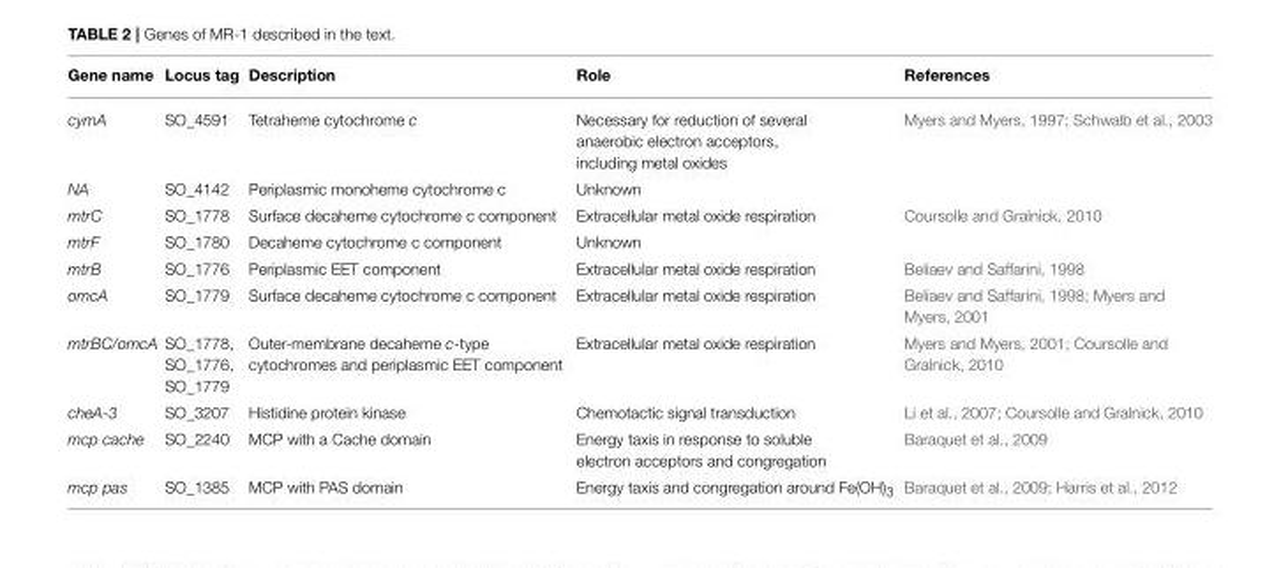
<table><thead><tr><td>Gene name</td><td>Locus tag</td><td>Description</td><td>Role</td><td>References</td></tr></thead><tbody><tr><td>cymA</td><td>SO_4591</td><td>Tetraheme cytochrome c</td><td>Necessary for reduction of several anaerobic electron acceptors, including metal oxides</td><td>Myers and Myers, 1997; Schwalb et al., 2003</td></tr><tr><td>NA</td><td>SO_4142</td><td>Periplasmic monoheme cytochrome c</td><td>Unknown</td><td></td></tr><tr><td>mtrC</td><td>SO_1778</td><td>Surface decaheme cytochrome c component</td><td>Extracellular metal oxide respiration</td><td>Coursolle and Gralnick, 2010</td></tr><tr><td>mtrF</td><td>SO_1780</td><td>Decaheme cytochrome c component</td><td>Unknown</td><td></td></tr><tr><td>mtrB</td><td>SO_1776</td><td>Periplasmic EET component</td><td>Extracellular metal oxide respiration</td><td>Beliaev and Saffarini, 1998</td></tr><tr><td>omcA</td><td>SO_1779</td><td>Surface decaheme cytochrome c component</td><td>Extracellular metal oxide respiration</td><td>Beliaev and Saffarini, 1998; Myers and Myers, 2001</td></tr><tr><td>mtrBC/omcA</td><td>SO_1778, SO_1776, SO_1779</td><td>Outer-membrane decaheme c-type cytochromes and periplasmic EET component</td><td>Extracellular metal oxide respiration</td><td>Myers and Myers, 2001; Coursolle and Gralnick, 2010</td></tr><tr><td>cheA-3</td><td>SO_3207</td><td>Histidine protein kinase</td><td>Chemotactic signal transduction</td><td>Li et al., 2007; Coursolle and Gralnick, 2010</td></tr><tr><td>mcp cache</td><td>SO_2240</td><td>MCP with a Cache domain</td><td>Energy taxis in response to soluble electron acceptors and congregation</td><td>Baraquet et al., 2009</td></tr><tr><td>mcp pas</td><td>SO_1385</td><td>MCP with PAS domain</td><td>Energy taxis and congregation around Fe(OH)<sub>3</sub></td><td>Baraquet et al., 2009; Harris et al., 2012</td></tr></tbody></table>